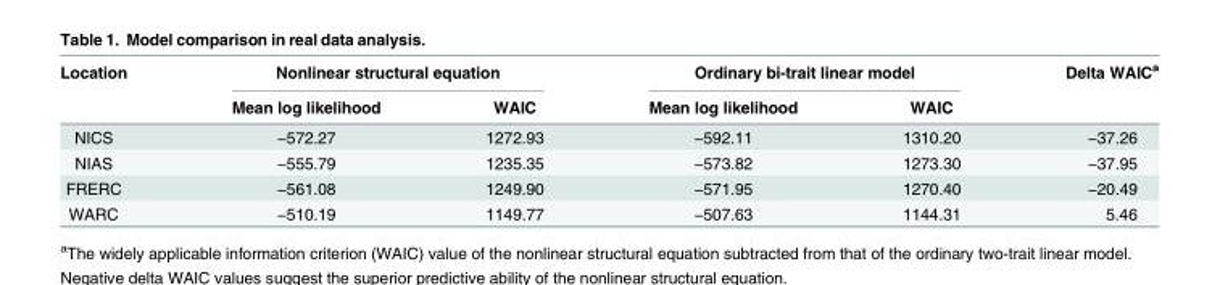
<table><thead><tr><td rowspan="2">Location</td><td colspan="2">Nonlinear structural equation</td><td colspan="2">Ordinary bi-trait linear model</td><td rowspan="2">Delta WAIC<sup>a</sup></td></tr><tr><td>Mean log likelihood</td><td>WAIC</td><td>Mean log likelihood</td><td>WAIC</td></tr></thead><tbody><tr><td>NICS</td><td>−572.27</td><td>1272.93</td><td>−592.11</td><td>1310.20</td><td>−37.26</td></tr><tr><td>NIAS</td><td>−555.79</td><td>1235.35</td><td>−573.82</td><td>1273.30</td><td>−37.95</td></tr><tr><td>FRERC</td><td>−561.08</td><td>1249.90</td><td>−571.95</td><td>1270.40</td><td>−20.49</td></tr><tr><td>WARC</td><td>−510.19</td><td>1149.77</td><td>−507.63</td><td>1144.31</td><td>5.46</td></tr></tbody></table>